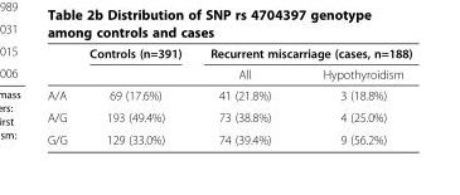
<table><thead><tr><td rowspan="2"></td><td rowspan="2">Controls (n=391)</td><td colspan="2">Recurrent miscarriage (cases, n=188)</td></tr><tr><td>All</td><td>Hypothyroidism</td></tr></thead><tbody><tr><td>A/A</td><td>69 (17.6%)</td><td>41 (21.8%)</td><td>3 (18.8%)</td></tr><tr><td>A/G</td><td>193 (49.4%)</td><td>73 (38.8%)</td><td>4 (25.0%)</td></tr><tr><td>G/G</td><td>129 (33.0%)</td><td>74 (39.4%)</td><td>9 (56.2%)</td></tr></tbody></table>